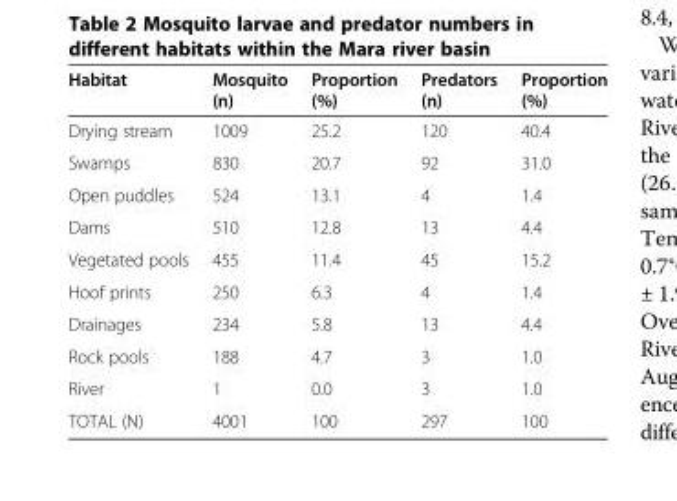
<table><thead><tr><td>Habitat</td><td>Mosquito (n)</td><td>Proportion (%)</td><td>Predators (n)</td><td>Proportion (%)</td></tr></thead><tbody><tr><td>Drying stream</td><td>1009</td><td>25.2</td><td>120</td><td>40.4</td></tr><tr><td>Swamps</td><td>830</td><td>20.7</td><td>92</td><td>31.0</td></tr><tr><td>Open puddles</td><td>524</td><td>13.1</td><td>4</td><td>1.4</td></tr><tr><td>Dams</td><td>510</td><td>12.8</td><td>13</td><td>4.4</td></tr><tr><td>Vegetated pools</td><td>455</td><td>11.4</td><td>45</td><td>15.2</td></tr><tr><td>Hoof prints</td><td>250</td><td>6.3</td><td>4</td><td>1.4</td></tr><tr><td>Drainages</td><td>234</td><td>5.8</td><td>13</td><td>4.4</td></tr><tr><td>Rock pools</td><td>188</td><td>4.7</td><td>3</td><td>1.0</td></tr><tr><td>River</td><td>1</td><td>0.0</td><td>3</td><td>1.0</td></tr><tr><td>TOTAL (N)</td><td>4001</td><td>100</td><td>297</td><td>100</td></tr></tbody></table>